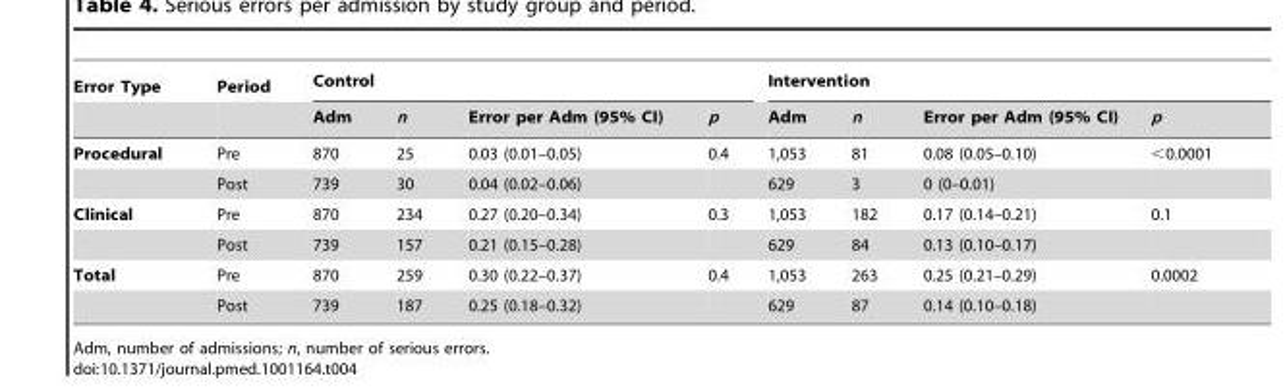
<table><thead><tr><td rowspan="2">Error Type</td><td rowspan="2">Period</td><td colspan="4">Control</td><td colspan="4">Intervention</td></tr><tr><td>Adm</td><td>n</td><td>Error per Adm (95% CI)</td><td>p</td><td>Adm</td><td>n</td><td>Error per Adm (95% CI)</td><td>p</td></tr></thead><tbody><tr><td rowspan="2">Procedural</td><td>Pre</td><td>870</td><td>25</td><td>0.03 (0.01–0.05)</td><td>0.4</td><td>1,053</td><td>81</td><td>0.08 (0.05–0.10)</td><td>&lt;0.0001</td></tr><tr><td>Post</td><td>739</td><td>30</td><td>0.04 (0.02–0.06)</td><td></td><td>629</td><td>3</td><td>0 (0–0.01)</td><td></td></tr><tr><td rowspan="2">Clinical</td><td>Pre</td><td>870</td><td>234</td><td>0.27 (0.20–0.34)</td><td>0.3</td><td>1,053</td><td>182</td><td>0.17 (0.14–0.21)</td><td>0.1</td></tr><tr><td>Post</td><td>739</td><td>157</td><td>0.21 (0.15–0.28)</td><td></td><td>629</td><td>84</td><td>0.13 (0.10–0.17)</td><td></td></tr><tr><td rowspan="2">Total</td><td>Pre</td><td>870</td><td>259</td><td>0.30 (0.22–0.37)</td><td>0.4</td><td>1,053</td><td>263</td><td>0.25 (0.21–0.29)</td><td>0.0002</td></tr><tr><td>Post</td><td>739</td><td>187</td><td>0.25 (0.18–0.32)</td><td></td><td>629</td><td>87</td><td>0.14 (0.10–0.18)</td><td></td></tr></tbody></table>